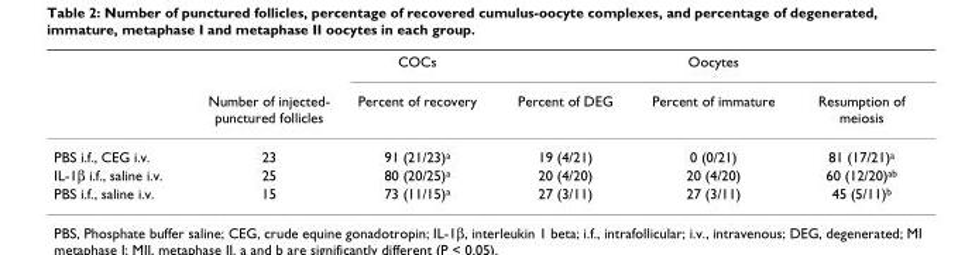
<table><thead><tr><td rowspan="2"></td><td rowspan="2">Number of injected- punctured follicles</td><td rowspan="2">COCs Percent of recovery</td><td colspan="3">Oocytes</td></tr><tr><td>Percent of DEG</td><td>Percent of immature</td><td>Resumption of meiosis</td></tr></thead><tbody><tr><td>PBS i.f., CEG i.v.</td><td>23</td><td>91 (21/23)<sup>a</sup></td><td>19 (4/21)</td><td>0 (0/21)</td><td>81 (17/21)<sup>a</sup></td></tr><tr><td>IL-1β i.f., saline i.v.</td><td>25</td><td>80 (20/25)<sup>a</sup></td><td>20 (4/20)</td><td>20 (4/20)</td><td>60 (12/20)<sup>ab</sup></td></tr><tr><td>PBS i.f., saline i.v.</td><td>15</td><td>73 (11/15)<sup>a</sup></td><td>27 (3/11)</td><td>27 (3/11)</td><td>45 (5/11)<sup>b</sup></td></tr></tbody></table>